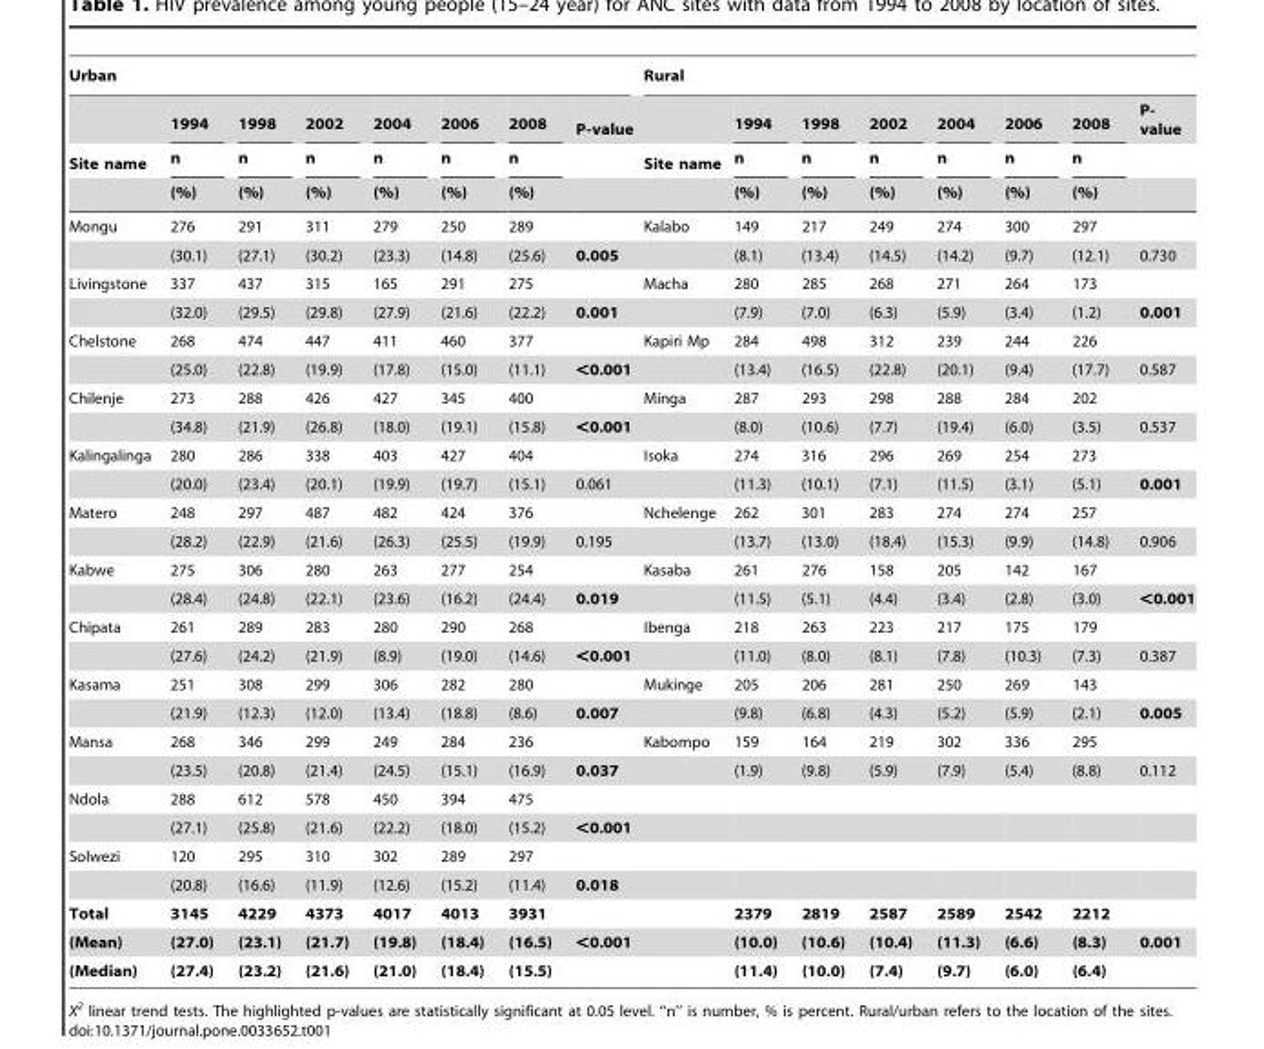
<table><thead><tr><td colspan="8">Urban</td><td colspan="8">Rural</td></tr><tr><td rowspan="3">Site name</td><td rowspan="3">1994 n (%)</td><td rowspan="3">1998 n (%)</td><td rowspan="3">2002 n (%)</td><td rowspan="3">2004 n (%)</td><td rowspan="3">2006 n (%)</td><td rowspan="3">2008 n (%)</td><td rowspan="3">P-value</td><td rowspan="3">Site name</td><td rowspan="3">1994 n (%)</td><td rowspan="3">1998 n (%)</td><td rowspan="3">2002 n (%)</td><td rowspan="3">2004 n (%)</td><td rowspan="3">2006 n (%)</td><td rowspan="3">2008 n (%)</td><td rowspan="3">P- value</td></tr><tr></tr><tr></tr></thead><tbody><tr><td rowspan="2">Mongu</td><td>276</td><td>291</td><td>311</td><td>279</td><td>250</td><td>289</td><td></td><td>Kalabo</td><td>149</td><td>217</td><td>249</td><td>274</td><td>300</td><td>297</td><td></td></tr><tr><td>(30.1)</td><td>(27.1)</td><td>(30.2)</td><td>(23.3)</td><td>(14.8)</td><td>(25.6)</td><td>0.005</td><td></td><td>(8.1)</td><td>(13.4)</td><td>(14.5)</td><td>(14.2)</td><td>(9.7)</td><td>(12.1)</td><td>0.730</td></tr><tr><td rowspan="2">Livingstone</td><td>337</td><td>437</td><td>315</td><td>165</td><td>291</td><td>275</td><td></td><td>Macha</td><td>280</td><td>285</td><td>268</td><td>271</td><td>264</td><td>173</td><td></td></tr><tr><td>(32.0)</td><td>(29.5)</td><td>(29.8)</td><td>(27.9)</td><td>(21.6)</td><td>(22.2)</td><td>0.001</td><td></td><td>(7.9)</td><td>(7.0)</td><td>(6.3)</td><td>(5.9)</td><td>(3.4)</td><td>(1.2)</td><td>0.001</td></tr><tr><td rowspan="2">Chelstone</td><td>268</td><td>474</td><td>447</td><td>411</td><td>460</td><td>377</td><td></td><td>Kapiri Mp</td><td>284</td><td>498</td><td>312</td><td>239</td><td>244</td><td>226</td><td></td></tr><tr><td>(25.0)</td><td>(22.8)</td><td>(19.9)</td><td>(17.8)</td><td>(15.0)</td><td>(11.1)</td><td>&lt;0.001</td><td></td><td>(13.4)</td><td>(16.5)</td><td>(22.8)</td><td>(20.1)</td><td>(9.4)</td><td>(17.7)</td><td>0.587</td></tr><tr><td rowspan="2">Chilenje</td><td>273</td><td>288</td><td>426</td><td>427</td><td>345</td><td>400</td><td></td><td>Minga</td><td>287</td><td>293</td><td>298</td><td>288</td><td>284</td><td>202</td><td></td></tr><tr><td>(34.8)</td><td>(21.9)</td><td>(26.8)</td><td>(18.0)</td><td>(19.1)</td><td>(15.8)</td><td>&lt;0.001</td><td></td><td>(8.0)</td><td>(10.6)</td><td>(7.7)</td><td>(19.4)</td><td>(6.0)</td><td>(3.5)</td><td>0.537</td></tr><tr><td rowspan="2">Kalingalinga</td><td>280</td><td>286</td><td>338</td><td>403</td><td>427</td><td>404</td><td></td><td>Isoka</td><td>274</td><td>316</td><td>296</td><td>269</td><td>254</td><td>273</td><td></td></tr><tr><td>(20.0)</td><td>(23.4)</td><td>(20.1)</td><td>(19.9)</td><td>(19.7)</td><td>(15.1)</td><td>0.061</td><td></td><td>(11.3)</td><td>(10.1)</td><td>(7.1)</td><td>(11.5)</td><td>(3.1)</td><td>(5.1)</td><td>0.001</td></tr><tr><td rowspan="2">Matero</td><td>248</td><td>297</td><td>487</td><td>482</td><td>424</td><td>376</td><td></td><td>Nchelenge</td><td>262</td><td>301</td><td>283</td><td>274</td><td>274</td><td>257</td><td></td></tr><tr><td>(28.2)</td><td>(22.9)</td><td>(21.6)</td><td>(26.3)</td><td>(25.5)</td><td>(19.9)</td><td>0.195</td><td></td><td>(13.7)</td><td>(13.0)</td><td>(18.4)</td><td>(15.3)</td><td>(9.9)</td><td>(14.8)</td><td>0.906</td></tr><tr><td rowspan="2">Kabwe</td><td>275</td><td>306</td><td>280</td><td>263</td><td>277</td><td>254</td><td></td><td>Kasaba</td><td>261</td><td>276</td><td>158</td><td>205</td><td>142</td><td>167</td><td></td></tr><tr><td>(28.4)</td><td>(24.8)</td><td>(22.1)</td><td>(23.6)</td><td>(16.2)</td><td>(24.4)</td><td>0.019</td><td></td><td>(11.5)</td><td>(5.1)</td><td>(4.4)</td><td>(3.4)</td><td>(2.8)</td><td>(3.0)</td><td>&lt;0.001</td></tr><tr><td rowspan="2">Chipata</td><td>261</td><td>289</td><td>283</td><td>280</td><td>290</td><td>268</td><td></td><td>Ibenga</td><td>218</td><td>263</td><td>223</td><td>217</td><td>175</td><td>179</td><td></td></tr><tr><td>(27.6)</td><td>(24.2)</td><td>(21.9)</td><td>(8.9)</td><td>(19.0)</td><td>(14.6)</td><td>&lt;0.001</td><td></td><td>(11.0)</td><td>(8.0)</td><td>(8.1)</td><td>(7.8)</td><td>(10.3)</td><td>(7.3)</td><td>0.387</td></tr><tr><td rowspan="2">Kasama</td><td>251</td><td>308</td><td>299</td><td>306</td><td>282</td><td>280</td><td></td><td>Mukinge</td><td>205</td><td>206</td><td>281</td><td>250</td><td>269</td><td>143</td><td></td></tr><tr><td>(21.9)</td><td>(12.3)</td><td>(12.0)</td><td>(13.4)</td><td>(18.8)</td><td>(8.6)</td><td>0.007</td><td></td><td>(9.8)</td><td>(6.8)</td><td>(4.3)</td><td>(5.2)</td><td>(5.9)</td><td>(2.1)</td><td>0.005</td></tr><tr><td rowspan="2">Mansa</td><td>268</td><td>346</td><td>299</td><td>249</td><td>284</td><td>236</td><td></td><td>Kabompo</td><td>159</td><td>164</td><td>219</td><td>302</td><td>336</td><td>295</td><td></td></tr><tr><td>(23.5)</td><td>(20.8)</td><td>(21.4)</td><td>(24.5)</td><td>(15.1)</td><td>(16.9)</td><td>0.037</td><td></td><td>(1.9)</td><td>(9.8)</td><td>(5.9)</td><td>(7.9)</td><td>(5.4)</td><td>(8.8)</td><td>0.112</td></tr><tr><td rowspan="2">Ndola</td><td>288</td><td>612</td><td>578</td><td>450</td><td>394</td><td>475</td><td></td><td></td><td></td><td></td><td></td><td></td><td></td><td></td><td></td></tr><tr><td>(27.1)</td><td>(25.8)</td><td>(21.6)</td><td>(22.2)</td><td>(18.0)</td><td>(15.2)</td><td>&lt;0.001</td><td></td><td></td><td></td><td></td><td></td><td></td><td></td><td></td></tr><tr><td rowspan="2">Solwezi</td><td>120</td><td>295</td><td>310</td><td>302</td><td>289</td><td>297</td><td></td><td></td><td></td><td></td><td></td><td></td><td></td><td></td><td></td></tr><tr><td>(20.8)</td><td>(16.6)</td><td>(11.9)</td><td>(12.6)</td><td>(15.2)</td><td>(11.4)</td><td>0.018</td><td></td><td></td><td></td><td></td><td></td><td></td><td></td><td></td></tr><tr><td>Total</td><td>3145</td><td>4229</td><td>4373</td><td>4017</td><td>4013</td><td>3931</td><td></td><td></td><td>2379</td><td>2819</td><td>2587</td><td>2589</td><td>2542</td><td>2212</td><td></td></tr><tr><td>(Mean)</td><td>(27.0)</td><td>(23.1)</td><td>(21.7)</td><td>(19.8)</td><td>(18.4)</td><td>(16.5)</td><td>&lt;0.001</td><td></td><td>(10.0)</td><td>(10.6)</td><td>(10.4)</td><td>(11.3)</td><td>(6.6)</td><td>(8.3)</td><td>0.001</td></tr><tr><td>(Median)</td><td>(27.4)</td><td>(23.2)</td><td>(21.6)</td><td>(21.0)</td><td>(18.4)</td><td>(15.5)</td><td></td><td></td><td>(11.4)</td><td>(10.0)</td><td>(7.4)</td><td>(9.7)</td><td>(6.0)</td><td>(6.4)</td><td></td></tr></tbody></table>